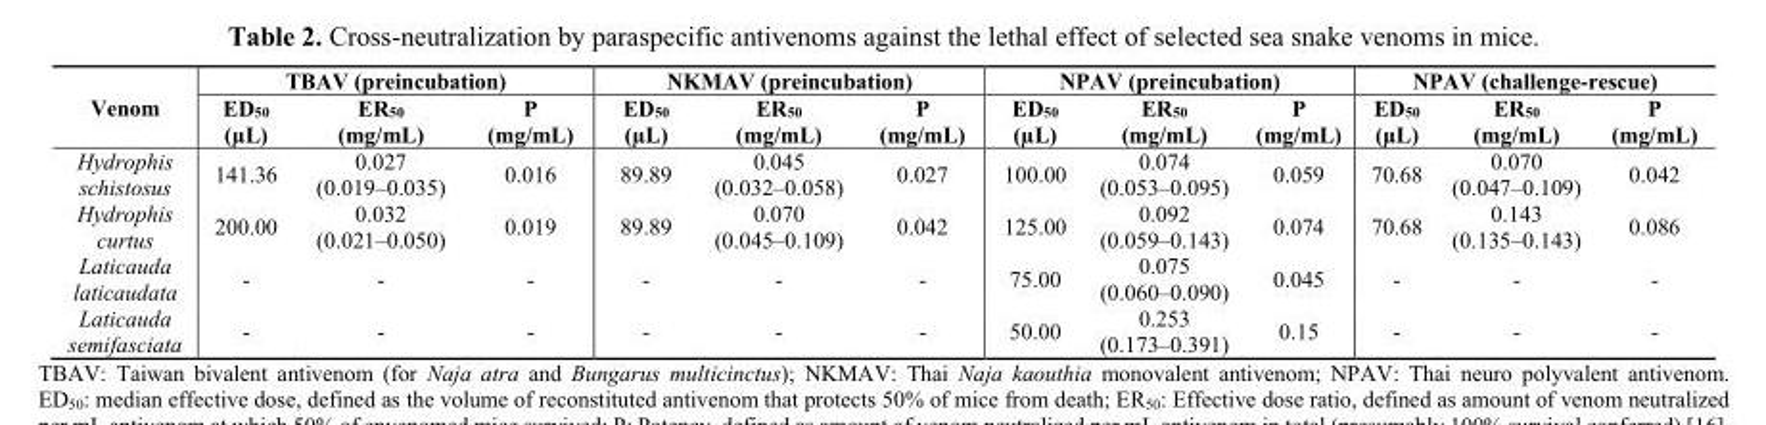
<table><thead><tr><td rowspan="2">Venom</td><td colspan="3">TBAV (preincubation)</td><td colspan="3">NKMAV (preincubation)</td><td colspan="3">NPAV (preincubation)</td><td colspan="3">NPAV (challenge-rescue)</td></tr><tr><td>ED<sub>50</sub> (µL)</td><td>ER<sub>50</sub> (mg/mL)</td><td>P (mg/mL)</td><td>ED<sub>50</sub> (µL)</td><td>ER<sub>50</sub> (mg/mL)</td><td>P (mg/mL)</td><td>ED<sub>50</sub> (µL)</td><td>ER<sub>50</sub> (mg/mL)</td><td>P (mg/mL)</td><td>ED<sub>50</sub> (µL)</td><td>ER<sub>50</sub> (mg/mL)</td><td>P (mg/mL)</td></tr></thead><tbody><tr><td>Hydrophis schistosus</td><td>141.36</td><td>0.027 (0.019–0.035)</td><td>0.016</td><td>89.89</td><td>0.045 (0.032–0.058)</td><td>0.027</td><td>100.00</td><td>0.074 (0.053–0.095)</td><td>0.059</td><td>70.68</td><td>0.070 (0.047–0.109)</td><td>0.042</td></tr><tr><td>Hydrophis curtus</td><td>200.00</td><td>0.032 (0.021–0.050)</td><td>0.019</td><td>89.89</td><td>0.070 (0.045–0.109)</td><td>0.042</td><td>125.00</td><td>0.092 (0.059–0.143)</td><td>0.074</td><td>70.68</td><td>0.143 (0.135–0.143)</td><td>0.086</td></tr><tr><td>Laticauda laticaudata</td><td>-</td><td>-</td><td>-</td><td>-</td><td>-</td><td>-</td><td>75.00</td><td>0.075 (0.060–0.090)</td><td>0.045</td><td>-</td><td>-</td><td>-</td></tr><tr><td>Laticauda semifasciata</td><td>-</td><td>-</td><td>-</td><td>-</td><td>-</td><td>-</td><td>50.00</td><td>0.253 (0.173–0.391)</td><td>0.15</td><td>-</td><td>-</td><td>-</td></tr></tbody></table>